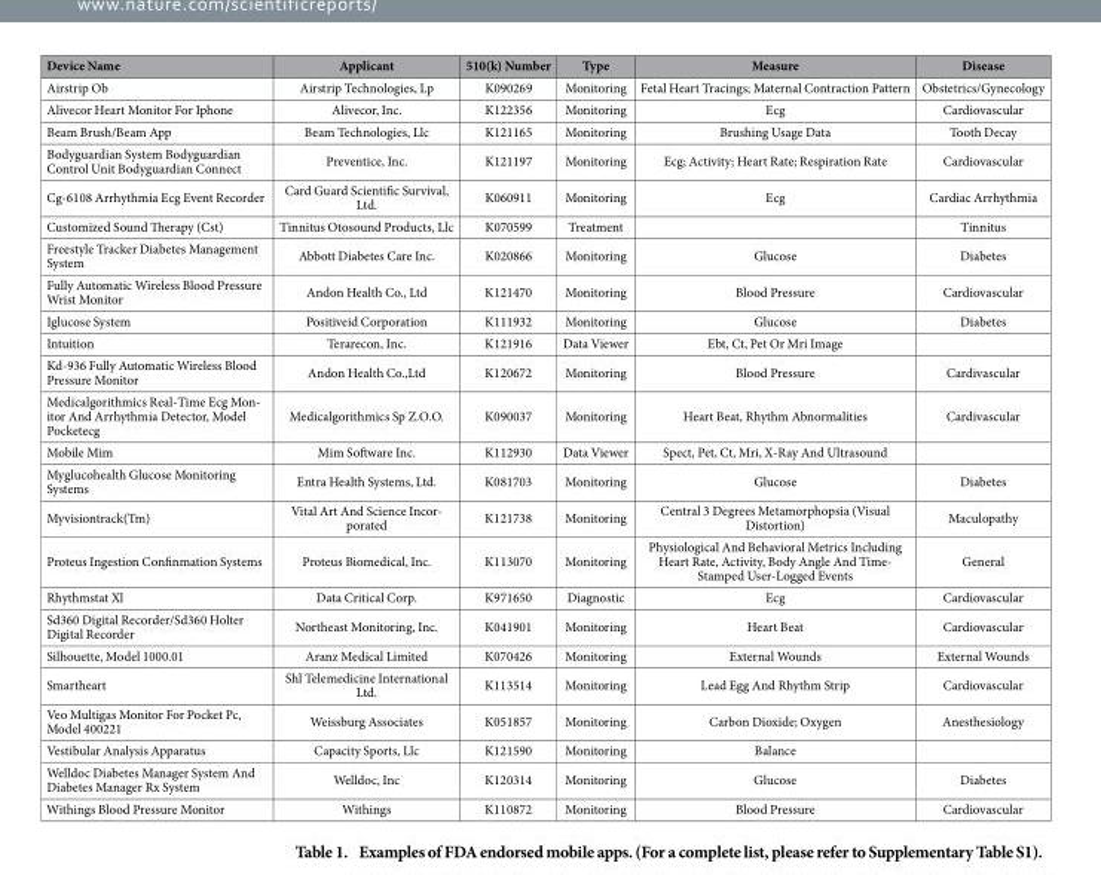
<table><thead><tr><td>Device Name</td><td>Applicant</td><td>510(k) Number</td><td>Type</td><td>Measure</td><td>Disease</td></tr></thead><tbody><tr><td>Airstrip Ob</td><td>Airstrip Technologies, Lp</td><td>K090269</td><td>Monitoring</td><td>Fetal Heart Tracings; Maternal Contraction Pattern</td><td>Obstetrics/Gynecology</td></tr><tr><td>Alivecor Heart Monitor For Iphone</td><td>Alivecor, Inc.</td><td>K122356</td><td>Monitoring</td><td>Ecg</td><td>Cardiovascular</td></tr><tr><td>Beam Brush/Beam App</td><td>Beam Technologies, Llc</td><td>K121165</td><td>Monitoring</td><td>Brushing Usage Data</td><td>Tooth Decay</td></tr><tr><td>Bodyguardian System Bodyguardian Control Unit Bodyguardian Connect</td><td>Preventice, Inc.</td><td>K121197</td><td>Monitoring</td><td>Ecg; Activity; Heart Rate; Respiration Rate</td><td>Cardiovascular</td></tr><tr><td>Cg-6108 Arrhythmia Ecg Event Recorder</td><td>Card Guard Scientific Survival, Ltd.</td><td>K060911</td><td>Monitoring</td><td>Ecg</td><td>Cardiac Arrhythmia</td></tr><tr><td>Customized Sound Therapy (Cst)</td><td>Tinnitus Otosound Products, Llc</td><td>K070599</td><td>Treatment</td><td></td><td>Tinnitus</td></tr><tr><td>Freestyle Tracker Diabetes Management System</td><td>Abbott Diabetes Care Inc.</td><td>K020866</td><td>Monitoring</td><td>Glucose</td><td>Diabetes</td></tr><tr><td>Fully Automatic Wireless Blood Pressure Wrist Monitor</td><td>Andon Health Co., Ltd</td><td>K121470</td><td>Monitoring</td><td>Blood Pressure</td><td>Cardiovascular</td></tr><tr><td>Iglucose System</td><td>Positiveid Corporation</td><td>K111932</td><td>Monitoring</td><td>Glucose</td><td>Diabetes</td></tr><tr><td>Intuition</td><td>Terarecon, Inc.</td><td>K121916</td><td>Data Viewer</td><td>Ebt, Ct, Pet Or Mri Image</td><td></td></tr><tr><td>Kd-936 Fully Automatic Wireless Blood Pressure Monitor</td><td>Andon Health Co.,Ltd</td><td>K120672</td><td>Monitoring</td><td>Blood Pressure</td><td>Cardivascular</td></tr><tr><td>Medicalgorithmics Real-Time Ecg Mon- itor And Arrhythmia Detector, Model Pocketecg</td><td>Medicalgorithmics Sp Z.O.O.</td><td>K090037</td><td>Monitoring</td><td>Heart Beat, Rhythm Abnormalities</td><td>Cardivascular</td></tr><tr><td>Mobile Mim</td><td>Mim Software Inc.</td><td>K112930</td><td>Data Viewer</td><td>Spect, Pet, Ct, Mri, X-Ray And Ultrasound</td><td></td></tr><tr><td>Myglucohealth Glucose Monitoring Systems</td><td>Entra Health Systems, Ltd.</td><td>K081703</td><td>Monitoring</td><td>Glucose</td><td>Diabetes</td></tr><tr><td>Myvisiontrack(Tm)</td><td>Vital Art And Science Incor- porated</td><td>K121738</td><td>Monitoring</td><td>Central 3 Degrees Metamorphopsia (Visual Distortion)</td><td>Maculopathy</td></tr><tr><td>Proteus Ingestion Confinmation Systems</td><td>Proteus Biomedical, Inc.</td><td>K113070</td><td>Monitoring</td><td>Physiological And Behavioral Metrics Including Heart Rate, Activity, Body Angle And Time- Stamped User-Logged Events</td><td>General</td></tr><tr><td>Rhythmstat Xl</td><td>Data Critical Corp.</td><td>K971650</td><td>Diagnostic</td><td>Ecg</td><td>Cardiovascular</td></tr><tr><td>Sd360 Digital Recorder/Sd360 Holter Digital Recorder</td><td>Northeast Monitoring, Inc.</td><td>K041901</td><td>Monitoring</td><td>Heart Beat</td><td>Cardiovascular</td></tr><tr><td>Silhouette, Model 1000.01</td><td>Aranz Medical Limited</td><td>K070426</td><td>Monitoring</td><td>External Wounds</td><td>External Wounds</td></tr><tr><td>Smartheart</td><td>Shl Telemedicine International Ltd.</td><td>K113514</td><td>Monitoring</td><td>Lead Egg And Rhythm Strip</td><td>Cardiovascular</td></tr><tr><td>Veo Multigas Monitor For Pocket Pc, Model 400221</td><td>Weissburg Associates</td><td>K051857</td><td>Monitoring</td><td>Carbon Dioxide; Oxygen</td><td>Anesthesiology</td></tr><tr><td>Vestibular Analysis Apparatus</td><td>Capacity Sports, Llc</td><td>K121590</td><td>Monitoring</td><td>Balance</td><td></td></tr><tr><td>Welldoc Diabetes Manager System And Diabetes Manager Rx System</td><td>Welldoc, Inc</td><td>K120314</td><td>Monitoring</td><td>Glucose</td><td>Diabetes</td></tr><tr><td>Withings Blood Pressure Monitor</td><td>Withings</td><td>K110872</td><td>Monitoring</td><td>Blood Pressure</td><td>Cardiovascular</td></tr></tbody></table>